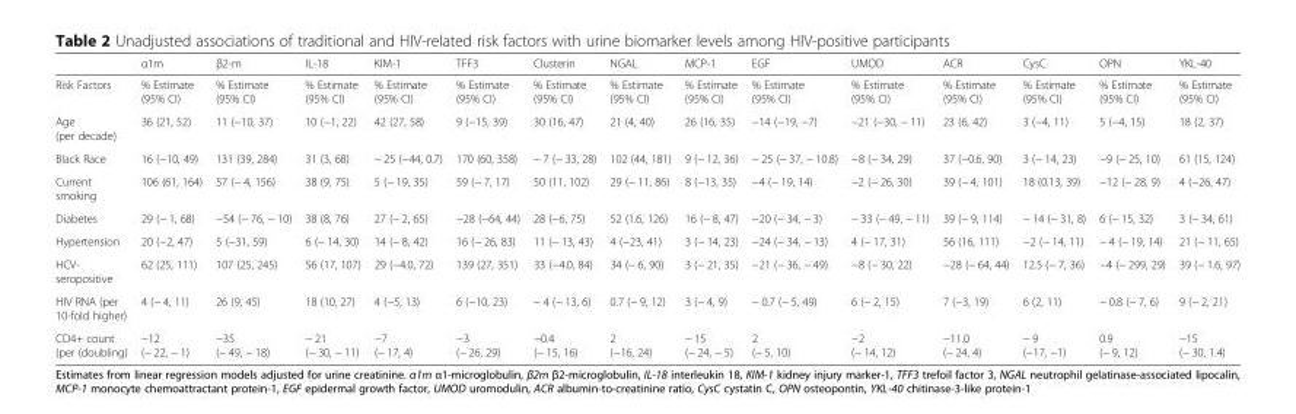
<table><thead><tr><td></td><td>α1m</td><td>β2-m</td><td>IL-18</td><td>KIM-1</td><td>TFF3</td><td>Clusterin</td><td>NGAL</td><td>MCP-1</td><td>EGF</td><td>UMOD</td><td>ACR</td><td>CysC</td><td>OPN</td><td>YKL-40</td></tr></thead><tbody><tr><td>Risk Factors</td><td>% Estimate (95% CI)</td><td>% Estimate (95% CI)</td><td>% Estimate (95% CI)</td><td>% Estimate (95% CI)</td><td>% Estimate (95% CI)</td><td>% Estimate (95% CI)</td><td>% Estimate (95% CI)</td><td>% Estimate (95% CI)</td><td>% Estimate (95% CI)</td><td>% Estimate (95% CI)</td><td>% Estimate (95% CI)</td><td>% Estimate (95% CI)</td><td>% Estimate (95% CI)</td><td>% Estimate (95% CI)</td></tr><tr><td>Age (per decade)</td><td>36 (21, 52)</td><td>11 (−10, 37)</td><td>10 (−1, 22)</td><td>42 (27, 58)</td><td>9 (−15, 39)</td><td>30 (16, 47)</td><td>21 (4, 40)</td><td>26 (16, 35)</td><td>−14 (−19, −7)</td><td>−21 (−30, − 11)</td><td>23 (6, 42)</td><td>3 (−4, 11)</td><td>5 (−4, 15)</td><td>18 (2, 37)</td></tr><tr><td>Black Race</td><td>16 (−10, 49)</td><td>131 (39, 284)</td><td>31 (3, 68)</td><td>− 25 (−44, 0.7)</td><td>170 (60, 358)</td><td>− 7 (− 33, 28)</td><td>102 (44, 181)</td><td>9 (− 12, 36)</td><td>− 25 (− 37, − 10.8)</td><td>−8 (− 34, 29)</td><td>37 (−0.6, 90)</td><td>3 (− 14, 23)</td><td>−9 (− 25, 10)</td><td>61 (15, 124)</td></tr><tr><td>Current smoking</td><td>106 (61, 164)</td><td>57 (− 4, 156)</td><td>38 (9, 75)</td><td>5 (− 19, 35)</td><td>59 (− 7, 17)</td><td>50 (11, 102)</td><td>29 (− 11, 86)</td><td>8 (−13, 35)</td><td>−4 (− 19, 14)</td><td>−2 (− 26, 30)</td><td>39 (− 4, 101)</td><td>18 (0.13, 39)</td><td>−12 (− 28, 9)</td><td>4 (−26, 47)</td></tr><tr><td>Diabetes</td><td>29 (− 1, 68)</td><td>−54 (− 76, − 10)</td><td>38 (8, 76)</td><td>27 (− 2, 65)</td><td>−28 (−64, 44)</td><td>28 (−6, 75)</td><td>52 (1.6, 126)</td><td>16 (− 8, 47)</td><td>−20 (− 34, − 3)</td><td>− 33 (− 49, − 11)</td><td>39 (− 9, 114)</td><td>− 14 (− 31, 8)</td><td>6 (− 15, 32)</td><td>3 (− 34, 61)</td></tr><tr><td>Hypertension</td><td>20 (−2, 47)</td><td>5 (−31, 59)</td><td>6 (− 14, 30)</td><td>14 (− 8, 42)</td><td>16 (− 26, 83)</td><td>11 (− 13, 43)</td><td>4 (−23, 41)</td><td>3 (− 14, 23)</td><td>−24 (− 34, − 13)</td><td>4 (− 17, 31)</td><td>56 (16, 111)</td><td>−2 (− 14, 11)</td><td>− 4 (− 19, 14)</td><td>21 (− 11, 65)</td></tr><tr><td>HCV- seropositive</td><td>62 (25, 111)</td><td>107 (25, 245)</td><td>56 (17, 107)</td><td>29 (−4.0, 72)</td><td>139 (27, 351)</td><td>33 (−4.0, 84)</td><td>34 (− 6, 90)</td><td>3 (− 21, 35)</td><td>−21 (− 36, − 49)</td><td>−8 (− 30, 22)</td><td>−28 (− 64, 44)</td><td>12.5 (− 7, 36)</td><td>−4 (− 299, 29)</td><td>39 (− 1.6, 97)</td></tr><tr><td>HIV RNA (per 10-fold higher)</td><td>4 (− 4, 11)</td><td>26 (9, 45)</td><td>18 (10, 27)</td><td>4 (−5, 13)</td><td>6 (−10, 23)</td><td>− 4 (− 13, 6)</td><td>0.7 (− 9, 12)</td><td>3 (− 4, 9)</td><td>− 0.7 (− 5, 49)</td><td>6 (− 2, 15)</td><td>7 (−3, 19)</td><td>6 (2, 11)</td><td>− 0.8 (− 7, 6)</td><td>9 (− 2, 21)</td></tr><tr><td>CD4+ count (per (doubling)</td><td>−12 (− 22, − 1)</td><td>−35 (− 49, − 18)</td><td>− 21 (− 30, − 11)</td><td>−7 (− 17, 4)</td><td>−3 (− 26, 29)</td><td>−0.4 (− 15, 16)</td><td>2 (−16, 24)</td><td>− 15 (− 24, − 5)</td><td>2 (− 5, 10)</td><td>−2 (− 14, 12)</td><td>−11.0 (− 24, 4)</td><td>− 9 (−17, −1)</td><td>0.9 (− 9, 12)</td><td>−15 (− 30, 1.4)</td></tr></tbody></table>